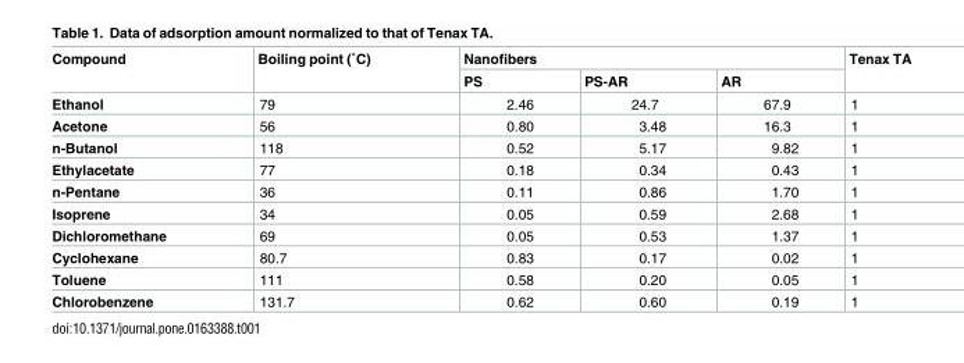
<table><thead><tr><td rowspan="2">Compound</td><td rowspan="2">Boiling point (˚C)</td><td colspan="3">Nanofibers</td><td rowspan="2">Tenax TA</td></tr><tr><td>PS</td><td>PS-AR</td><td>AR</td></tr></thead><tbody><tr><td>Ethanol</td><td>79</td><td>2.46</td><td>24.7</td><td>67.9</td><td>1</td></tr><tr><td>Acetone</td><td>56</td><td>0.80</td><td>3.48</td><td>16.3</td><td>1</td></tr><tr><td>n-Butanol</td><td>118</td><td>0.52</td><td>5.17</td><td>9.82</td><td>1</td></tr><tr><td>Ethylacetate</td><td>77</td><td>0.18</td><td>0.34</td><td>0.43</td><td>1</td></tr><tr><td>n-Pentane</td><td>36</td><td>0.11</td><td>0.86</td><td>1.70</td><td>1</td></tr><tr><td>Isoprene</td><td>34</td><td>0.05</td><td>0.59</td><td>2.68</td><td>1</td></tr><tr><td>Dichloromethane</td><td>69</td><td>0.05</td><td>0.53</td><td>1.37</td><td>1</td></tr><tr><td>Cyclohexane</td><td>80.7</td><td>0.83</td><td>0.17</td><td>0.02</td><td>1</td></tr><tr><td>Toluene</td><td>111</td><td>0.58</td><td>0.20</td><td>0.05</td><td>1</td></tr><tr><td>Chlorobenzene</td><td>131.7</td><td>0.62</td><td>0.60</td><td>0.19</td><td>1</td></tr></tbody></table>